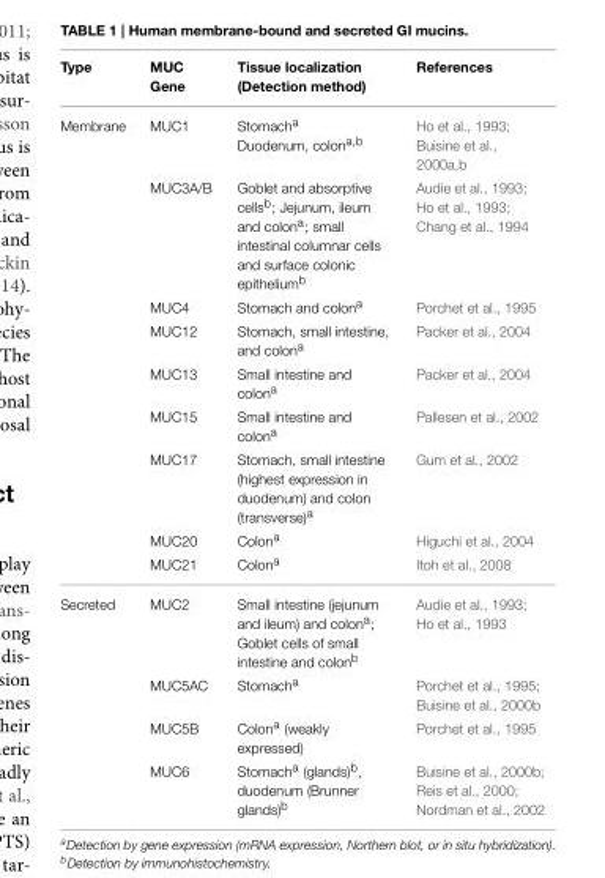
<table><thead><tr><td>Type</td><td>MUC Gene</td><td>Tissue localization (Detection method)</td><td>References</td></tr></thead><tbody><tr><td rowspan="9">Membrane</td><td>MUC1</td><td>Stomach<sup>a</sup> Duodenum, colon<sup>a</sup>,<sup>b</sup></td><td>Ho et al., 1993; Buisine et al., 2000a,b</td></tr><tr><td>MUC3A/B</td><td>Goblet and absorptive cells<sup>b</sup>; Jejunum, ileum and colon<sup>a</sup>; small intestinal columnar cells and surface colonic epithelium<sup>b</sup></td><td>Audie et al., 1993; Ho et al., 1993; Chang et al., 1994</td></tr><tr><td>MUC4</td><td>Stomach and colon<sup>a</sup></td><td>Porchet et al., 1995</td></tr><tr><td>MUC12</td><td>Stomach, small intestine, and colon<sup>a</sup></td><td>Packer et al., 2004</td></tr><tr><td>MUC13</td><td>Small intestine and colon<sup>a</sup></td><td>Packer et al., 2004</td></tr><tr><td>MUC15</td><td>Small intestine and colon<sup>a</sup></td><td>Pallesen et al., 2002</td></tr><tr><td>MUC17</td><td>Stomach, small intestine (highest expression in duodenum) and colon (transverse)<sup>a</sup></td><td>Gum et al., 2002</td></tr><tr><td>MUC20</td><td>Colon<sup>a</sup></td><td>Higuchi et al., 2004</td></tr><tr><td>MUC21</td><td>Colon<sup>a</sup></td><td>Itoh et al., 2008</td></tr><tr><td rowspan="4">Secreted</td><td>MUC2</td><td>Small intestine (jejunum and ileum) and colon<sup>a</sup>; Goblet cells of small intestine and colon<sup>b</sup></td><td>Audie et al., 1993; Ho et al., 1993</td></tr><tr><td>MUC5AC</td><td>Stomach<sup>a</sup></td><td>Porchet et al., 1995; Buisine et al., 2000b</td></tr><tr><td>MUC5B</td><td>Colon<sup>a</sup> (weakly expressed)</td><td>Porchet et al., 1995</td></tr><tr><td>MUC6</td><td>Stomach<sup>a</sup> (glands)<sup>b</sup>, duodenum (Brunner glands)<sup>b</sup></td><td>Buisine et al., 2000b; Reis et al., 2000; Nordman et al., 2002</td></tr></tbody></table>